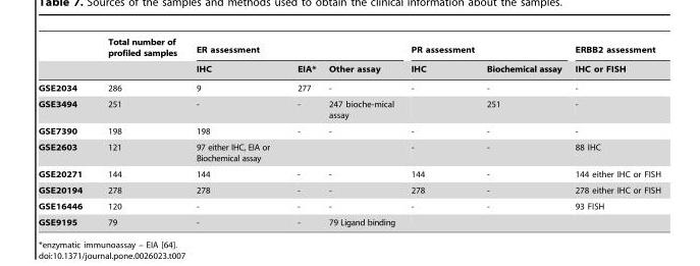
<table><thead><tr><td rowspan="2"></td><td rowspan="2">Total number of profiled samples</td><td colspan="3">ER assessment</td><td colspan="2">PR assessment</td><td rowspan="2">ERBB2 assessment IHC or FISH</td></tr><tr><td>IHC</td><td>EIA*</td><td>Other assay</td><td>IHC</td><td>Biochemical assay</td></tr></thead><tbody><tr><td>GSE2034</td><td>286</td><td>9</td><td>277</td><td>-</td><td>-</td><td>-</td><td>-</td></tr><tr><td>GSE3494</td><td>251</td><td>-</td><td>-</td><td>247 bioche-mical assay</td><td></td><td>251</td><td>-</td></tr><tr><td>GSE7390</td><td>198</td><td>198</td><td>-</td><td>-</td><td>-</td><td>-</td><td>-</td></tr><tr><td>GSE2603</td><td>121</td><td colspan="3">97 either IHC, EIA or Biochemical assay</td><td>-</td><td>-</td><td>88 IHC</td></tr><tr><td>GSE20271</td><td>144</td><td>144</td><td>-</td><td>-</td><td>144</td><td>-</td><td>144 either IHC or FISH</td></tr><tr><td>GSE20194</td><td>278</td><td>278</td><td>-</td><td>-</td><td>278</td><td>-</td><td>278 either IHC or FISH</td></tr><tr><td>GSE16446</td><td>120</td><td>-</td><td>-</td><td>-</td><td>-</td><td>-</td><td>93 FISH</td></tr><tr><td>GSE9195</td><td>79</td><td>-</td><td>-</td><td>79 Ligand binding</td><td></td><td></td><td></td></tr></tbody></table>